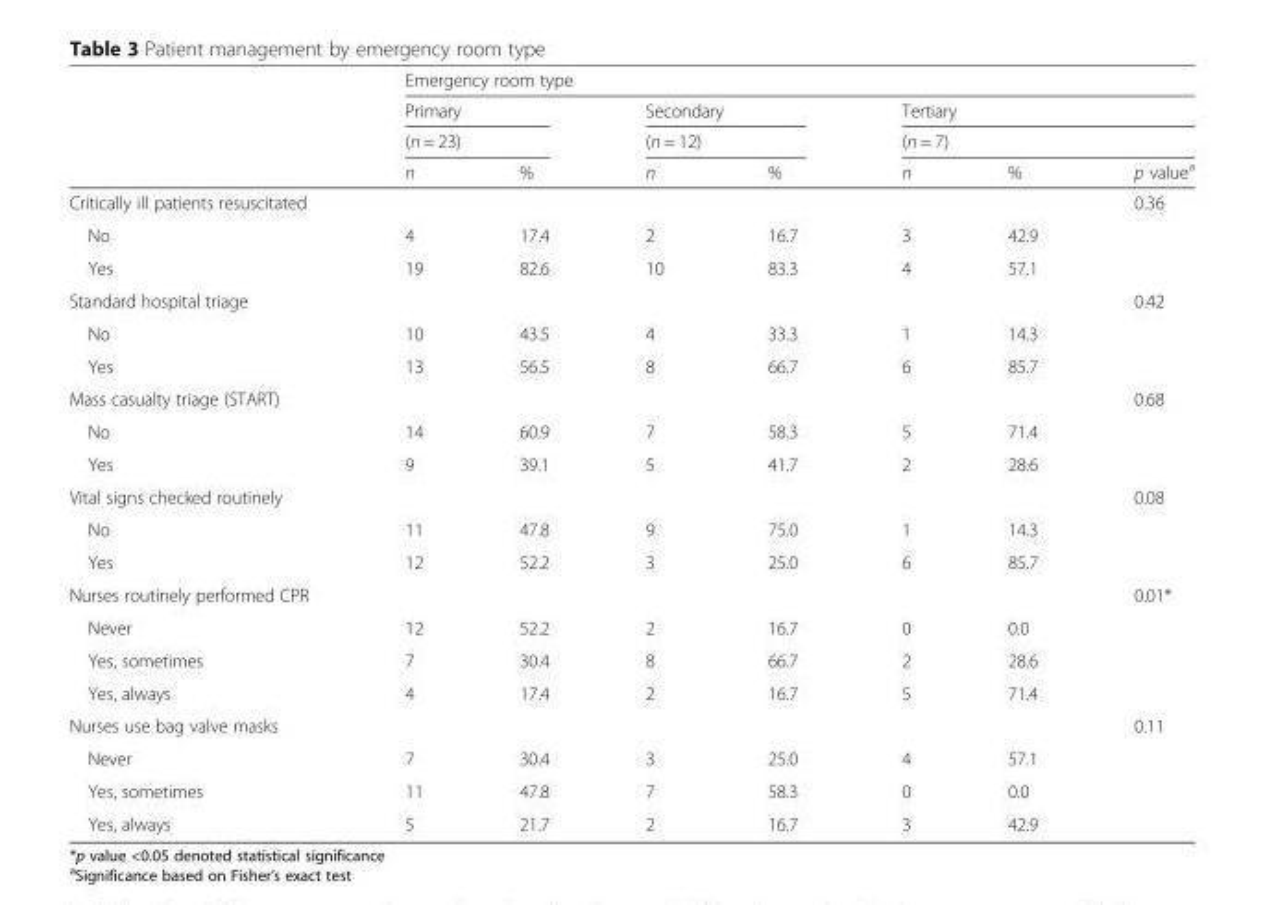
<table><thead><tr><td rowspan="4"></td><td colspan="7">Emergency room type</td></tr><tr><td rowspan="2" colspan="2">Primary (n = 23)</td><td rowspan="2" colspan="2">Secondary (n = 12)</td><td rowspan="2" colspan="3">Tertiary (n = 7)</td></tr><tr></tr><tr><td>n</td><td>%</td><td>n</td><td>%</td><td>n</td><td>%</td><td>p value<sup>a</sup></td></tr></thead><tbody><tr><td>Critically ill patients resuscitated</td><td></td><td></td><td></td><td></td><td></td><td></td><td>0.36</td></tr><tr><td>No</td><td>4</td><td>17.4</td><td>2</td><td>16.7</td><td>3</td><td>42.9</td><td></td></tr><tr><td>Yes</td><td>19</td><td>82.6</td><td>10</td><td>83.3</td><td>4</td><td>57.1</td><td></td></tr><tr><td>Standard hospital triage</td><td></td><td></td><td></td><td></td><td></td><td></td><td>0.42</td></tr><tr><td>No</td><td>10</td><td>43.5</td><td>4</td><td>33.3</td><td>1</td><td>14.3</td><td></td></tr><tr><td>Yes</td><td>13</td><td>56.5</td><td>8</td><td>66.7</td><td>6</td><td>85.7</td><td></td></tr><tr><td>Mass casualty triage (START)</td><td></td><td></td><td></td><td></td><td></td><td></td><td>0.68</td></tr><tr><td>No</td><td>14</td><td>60.9</td><td>7</td><td>58.3</td><td>5</td><td>71.4</td><td></td></tr><tr><td>Yes</td><td>9</td><td>39.1</td><td>5</td><td>41.7</td><td>2</td><td>28.6</td><td></td></tr><tr><td>Vital signs checked routinely</td><td></td><td></td><td></td><td></td><td></td><td></td><td>0.08</td></tr><tr><td>No</td><td>11</td><td>47.8</td><td>9</td><td>75.0</td><td>1</td><td>14.3</td><td></td></tr><tr><td>Yes</td><td>12</td><td>52.2</td><td>3</td><td>25.0</td><td>6</td><td>85.7</td><td></td></tr><tr><td>Nurses routinely performed CPR</td><td></td><td></td><td></td><td></td><td></td><td></td><td>0.01*</td></tr><tr><td>Never</td><td>12</td><td>52.2</td><td>2</td><td>16.7</td><td>0</td><td>0.0</td><td></td></tr><tr><td>Yes, sometimes</td><td>7</td><td>30.4</td><td>8</td><td>66.7</td><td>2</td><td>28.6</td><td></td></tr><tr><td>Yes, always</td><td>4</td><td>17.4</td><td>2</td><td>16.7</td><td>5</td><td>71.4</td><td></td></tr><tr><td>Nurses use bag valve masks</td><td></td><td></td><td></td><td></td><td></td><td></td><td>0.11</td></tr><tr><td>Never</td><td>7</td><td>30.4</td><td>3</td><td>25.0</td><td>4</td><td>57.1</td><td></td></tr><tr><td>Yes, sometimes</td><td>11</td><td>47.8</td><td>7</td><td>58.3</td><td>0</td><td>0.0</td><td></td></tr><tr><td>Yes, always</td><td>5</td><td>21.7</td><td>2</td><td>16.7</td><td>3</td><td>42.9</td><td></td></tr></tbody></table>